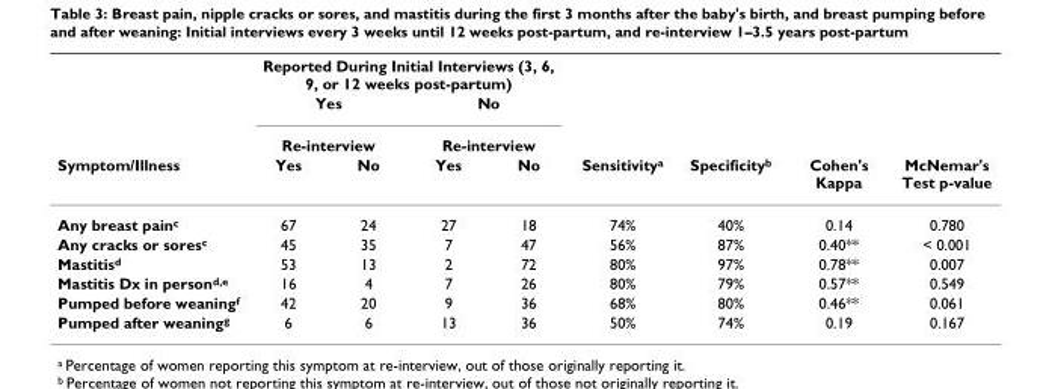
<table><thead><tr><td rowspan="4">Symptom/Illness</td><td colspan="4">Reported During Initial Interviews (3, 6, 9, or 12 weeks post-partum)</td><td rowspan="4">Sensitivity<sup>a</sup></td><td rowspan="4">Specificity<sup>b</sup></td><td rowspan="4">Cohen&#x27;s Kappa</td><td rowspan="4">McNemar&#x27;s Test p-value</td></tr><tr><td rowspan="2" colspan="2">Yes Re-interview</td><td rowspan="2" colspan="2">No Re-interview</td></tr><tr></tr><tr><td>Yes</td><td>No</td><td>Yes</td><td>No</td></tr></thead><tbody><tr><td>Any breast pain<sup>c</sup></td><td>67</td><td>24</td><td>27</td><td>18</td><td>74%</td><td>40%</td><td>0.14</td><td>0.780</td></tr><tr><td>Any cracks or sores<sup>c</sup></td><td>45</td><td>35</td><td>7</td><td>47</td><td>56%</td><td>87%</td><td>0.40**</td><td>&lt; 0.001</td></tr><tr><td>Mastitis<sup>d</sup></td><td>53</td><td>13</td><td>2</td><td>72</td><td>80%</td><td>97%</td><td>0.78**</td><td>0.007</td></tr><tr><td>Mastitis Dx in person<sup>d,e</sup></td><td>16</td><td>4</td><td>7</td><td>26</td><td>80%</td><td>79%</td><td>0.57**</td><td>0.549</td></tr><tr><td>Pumped before weaning<sup>f</sup></td><td>42</td><td>20</td><td>9</td><td>36</td><td>68%</td><td>80%</td><td>0.46**</td><td>0.061</td></tr><tr><td>Pumped after weaning<sup>g</sup></td><td>6</td><td>6</td><td>13</td><td>36</td><td>50%</td><td>74%</td><td>0.19</td><td>0.167</td></tr></tbody></table>